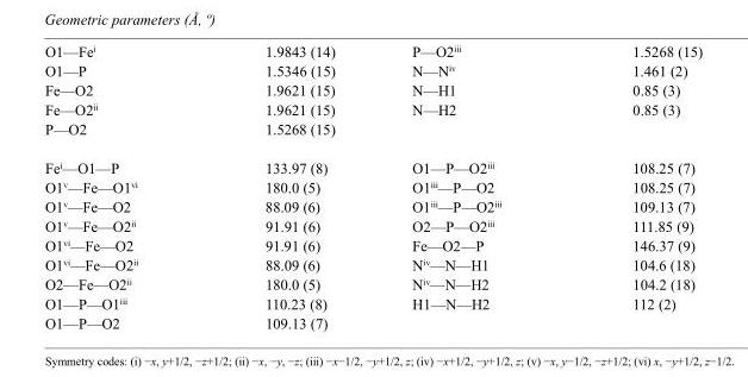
<table><tbody><tr><td>O1—Fe<sup>i</sup></td><td>1.9843 (14)</td><td>P—O2<sup>iii</sup></td><td>1.5268 (15)</td></tr><tr><td>O1—P</td><td>1.5346 (15)</td><td>N—N<sup>iv</sup></td><td>1.461 (2)</td></tr><tr><td>Fe—O2</td><td>1.9621 (15)</td><td>N—H1</td><td>0.85 (3)</td></tr><tr><td>Fe—O2<sup>ii</sup></td><td>1.9621 (15)</td><td>N—H2</td><td>0.85 (3)</td></tr><tr><td>P—O2</td><td>1.5268 (15)</td><td></td><td></td></tr><tr><td>Fe<sup>i</sup>—O1—P</td><td>133.97 (8)</td><td>O1—P—O2<sup>iii</sup></td><td>108.25 (7)</td></tr><tr><td>O1<sup>v</sup>—Fe—O1<sup>vi</sup></td><td>180.0 (5)</td><td>O1<sup>iii</sup>—P—O2</td><td>108.25 (7)</td></tr><tr><td>O1<sup>v</sup>—Fe—O2</td><td>88.09 (6)</td><td>O1<sup>iii</sup>—P—O2<sup>iii</sup></td><td>109.13 (7)</td></tr><tr><td>O1<sup>v</sup>—Fe—O2<sup>ii</sup></td><td>91.91 (6)</td><td>O2—P—O2<sup>iii</sup></td><td>111.85 (9)</td></tr><tr><td>O1<sup>vi</sup>—Fe—O2</td><td>91.91 (6)</td><td>Fe—O2—P</td><td>146.37 (9)</td></tr><tr><td>O1<sup>vi</sup>—Fe—O2<sup>ii</sup></td><td>88.09 (6)</td><td>N<sup>iv</sup>—N—H1</td><td>104.6 (18)</td></tr><tr><td>O2—Fe—O2<sup>ii</sup></td><td>180.0 (5)</td><td>N<sup>iv</sup>—N—H2</td><td>104.2 (18)</td></tr><tr><td>O1—P—O1<sup>iii</sup></td><td>110.23 (8)</td><td>H1—N—H2</td><td>112 (2)</td></tr><tr><td>O1—P—O2</td><td>109.13 (7)</td><td></td><td></td></tr></tbody></table>